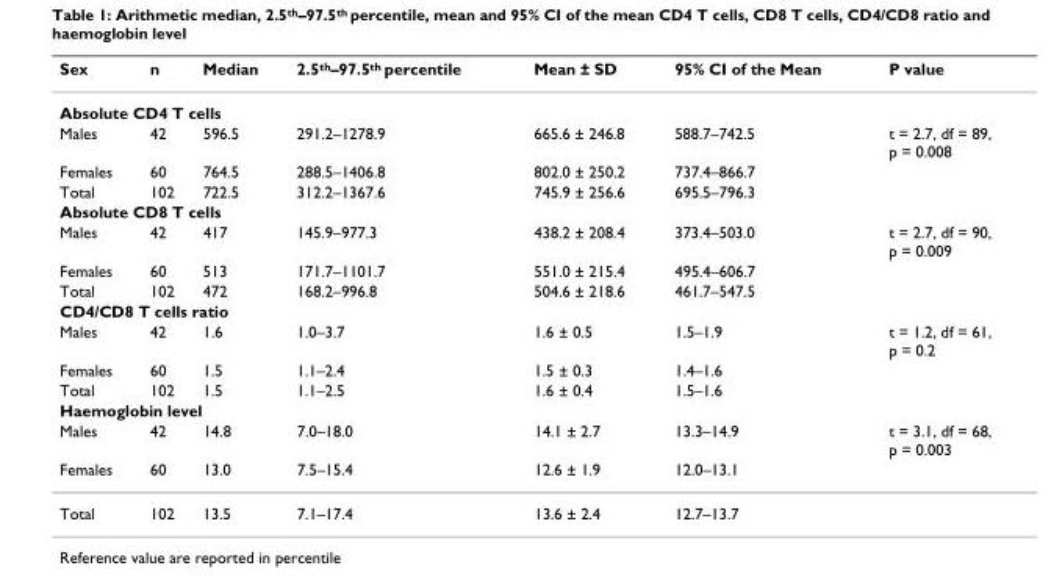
<table><thead><tr><td>Sex</td><td>n</td><td>Median</td><td>2.5<sup>th</sup>–97.5<sup>th</sup> percentile</td><td>Mean ± SD</td><td>95% CI of the Mean</td><td>P value</td></tr></thead><tbody><tr><td colspan="7">Absolute CD4 T cells</td></tr><tr><td>Males</td><td>42</td><td>596.5</td><td>291.2–1278.9</td><td>665.6 ± 246.8</td><td>588.7–742.5</td><td>t = 2.7, df = 89, p = 0.008</td></tr><tr><td>Females</td><td>60</td><td>764.5</td><td>288.5–1406.8</td><td>802.0 ± 250.2</td><td>737.4–866.7</td><td></td></tr><tr><td>Total</td><td>102</td><td>722.5</td><td>312.2–1367.6</td><td>745.9 ± 256.6</td><td>695.5–796.3</td><td></td></tr><tr><td colspan="7">Absolute CD8 T cells</td></tr><tr><td>Males</td><td>42</td><td>417</td><td>145.9–977.3</td><td>438.2 ± 208.4</td><td>373.4–503.0</td><td>t = 2.7, df = 90, p = 0.009</td></tr><tr><td>Females</td><td>60</td><td>513</td><td>171.7–1101.7</td><td>551.0 ± 215.4</td><td>495.4–606.7</td><td></td></tr><tr><td>Total</td><td>102</td><td>472</td><td>168.2–996.8</td><td>504.6 ± 218.6</td><td>461.7–547.5</td><td></td></tr><tr><td colspan="7">CD4/CD8 T cells ratio</td></tr><tr><td>Males</td><td>42</td><td>1.6</td><td>1.0–3.7</td><td>1.6 ± 0.5</td><td>1.5–1.9</td><td>t = 1.2, df = 61, p = 0.2</td></tr><tr><td>Females</td><td>60</td><td>1.5</td><td>1.1–2.4</td><td>1.5 ± 0.3</td><td>1.4–1.6</td><td></td></tr><tr><td>Total</td><td>102</td><td>1.5</td><td>1.1–2.5</td><td>1.6 ± 0.4</td><td>1.5–1.6</td><td></td></tr><tr><td colspan="7">Haemoglobin level</td></tr><tr><td>Males</td><td>42</td><td>14.8</td><td>7.0–18.0</td><td>14.1 ± 2.7</td><td>13.3–14.9</td><td>t = 3.1, df = 68, p = 0.003</td></tr><tr><td>Females</td><td>60</td><td>13.0</td><td>7.5–15.4</td><td>12.6 ± 1.9</td><td>12.0–13.1</td><td></td></tr><tr><td>Total</td><td>102</td><td>13.5</td><td>7.1–17.4</td><td>13.6 ± 2.4</td><td>12.7–13.7</td><td></td></tr></tbody></table>